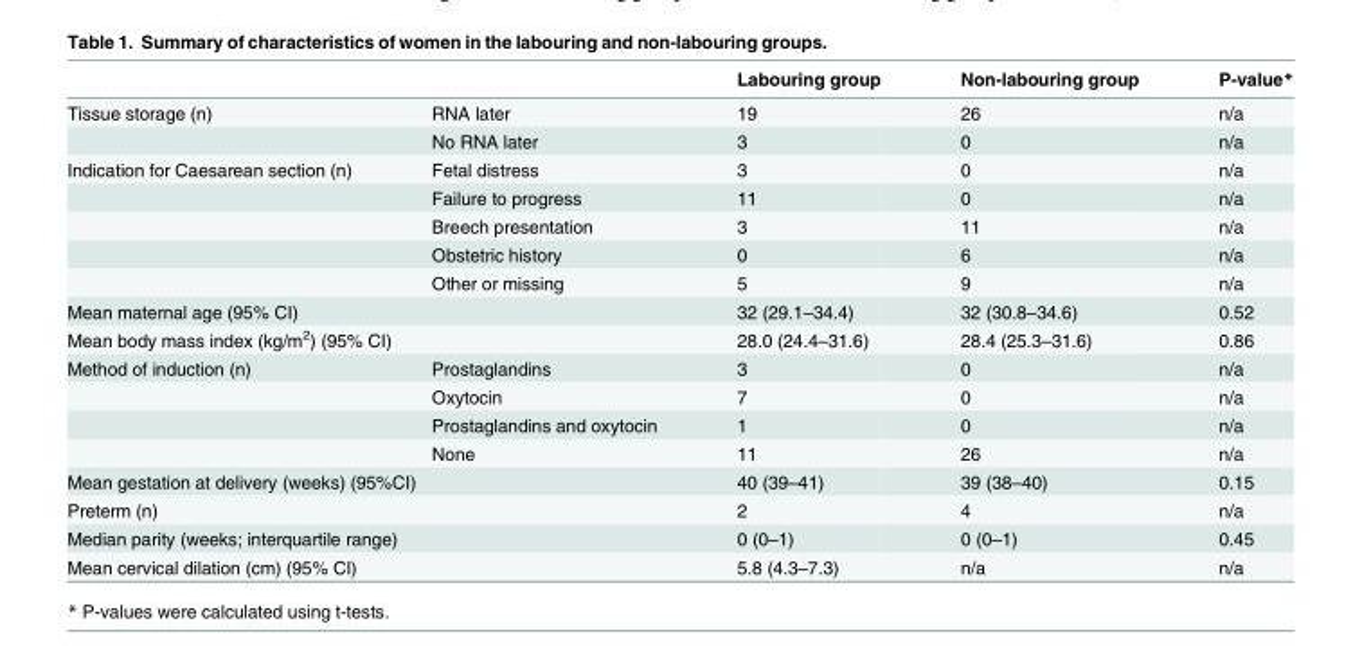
<table><thead><tr><td></td><td></td><td>Labouring group</td><td>Non-labouring group</td><td>P-value*</td></tr></thead><tbody><tr><td rowspan="2">Tissue storage (n)</td><td>RNA later</td><td>19</td><td>26</td><td>n/a</td></tr><tr><td>No RNA later</td><td>3</td><td>0</td><td>n/a</td></tr><tr><td rowspan="5">Indication for Caesarean section (n)</td><td>Fetal distress</td><td>3</td><td>0</td><td>n/a</td></tr><tr><td>Failure to progress</td><td>11</td><td>0</td><td>n/a</td></tr><tr><td>Breech presentation</td><td>3</td><td>11</td><td>n/a</td></tr><tr><td>Obstetric history</td><td>0</td><td>6</td><td>n/a</td></tr><tr><td>Other or missing</td><td>5</td><td>9</td><td>n/a</td></tr><tr><td colspan="2">Mean maternal age (95% CI)</td><td>32 (29.1–34.4)</td><td>32 (30.8–34.6)</td><td>0.52</td></tr><tr><td colspan="2">Mean body mass index (kg/m<sup>2</sup>) (95% CI)</td><td>28.0 (24.4–31.6)</td><td>28.4 (25.3–31.6)</td><td>0.86</td></tr><tr><td rowspan="4">Method of induction (n)</td><td>Prostaglandins</td><td>3</td><td>0</td><td>n/a</td></tr><tr><td>Oxytocin</td><td>7</td><td>0</td><td>n/a</td></tr><tr><td>Prostaglandins and oxytocin</td><td>1</td><td>0</td><td>n/a</td></tr><tr><td>None</td><td>11</td><td>26</td><td>n/a</td></tr><tr><td colspan="2">Mean gestation at delivery (weeks) (95%CI)</td><td>40 (39–41)</td><td>39 (38–40)</td><td>0.15</td></tr><tr><td colspan="2">Preterm (n)</td><td>2</td><td>4</td><td>n/a</td></tr><tr><td colspan="2">Median parity (weeks; interquartile range)</td><td>0 (0–1)</td><td>0 (0–1)</td><td>0.45</td></tr><tr><td colspan="2">Mean cervical dilation (cm) (95% CI)</td><td>5.8 (4.3–7.3)</td><td>n/a</td><td>n/a</td></tr></tbody></table>